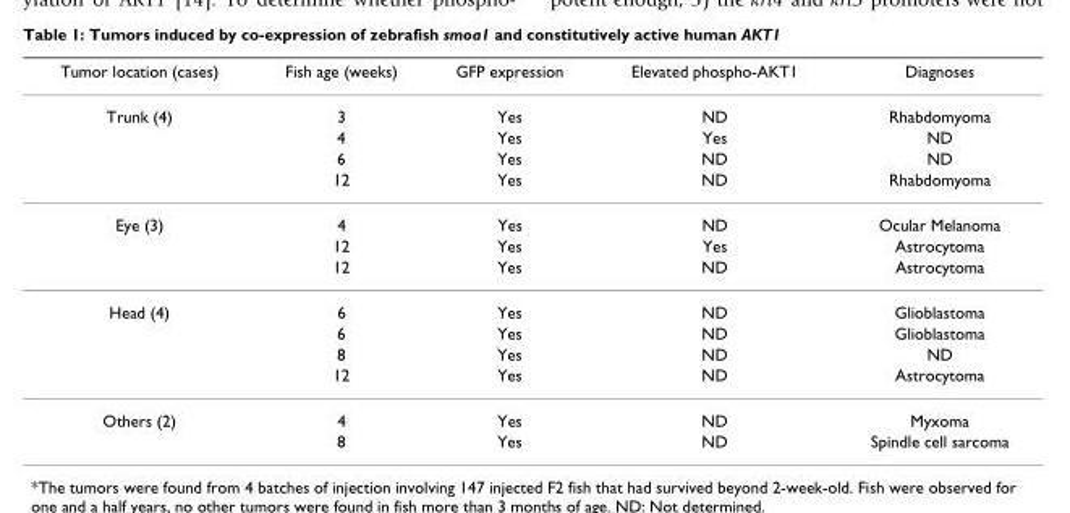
<table><thead><tr><td>Tumor location (cases)</td><td>Fish age (weeks)</td><td>GFP expression</td><td>Elevated phospho-AKT1</td><td>Diagnoses</td></tr></thead><tbody><tr><td rowspan="4">Trunk (4)</td><td>3</td><td>Yes</td><td>ND</td><td>Rhabdomyoma</td></tr><tr><td>4</td><td>Yes</td><td>Yes</td><td>ND</td></tr><tr><td>6</td><td>Yes</td><td>ND</td><td>ND</td></tr><tr><td>12</td><td>Yes</td><td>ND</td><td>Rhabdomyoma</td></tr><tr><td rowspan="3">Eye (3)</td><td>4</td><td>Yes</td><td>ND</td><td>Ocular Melanoma</td></tr><tr><td>12</td><td>Yes</td><td>Yes</td><td>Astrocytoma</td></tr><tr><td>12</td><td>Yes</td><td>ND</td><td>Astrocytoma</td></tr><tr><td rowspan="4">Head (4)</td><td>6</td><td>Yes</td><td>ND</td><td>Glioblastoma</td></tr><tr><td>6</td><td>Yes</td><td>ND</td><td>Glioblastoma</td></tr><tr><td>8</td><td>Yes</td><td>ND</td><td>ND</td></tr><tr><td>12</td><td>Yes</td><td>ND</td><td>Astrocytoma</td></tr><tr><td rowspan="2">Others (2)</td><td>4</td><td>Yes</td><td>ND</td><td>Myxoma</td></tr><tr><td>8</td><td>Yes</td><td>ND</td><td>Spindle cell sarcoma</td></tr></tbody></table>